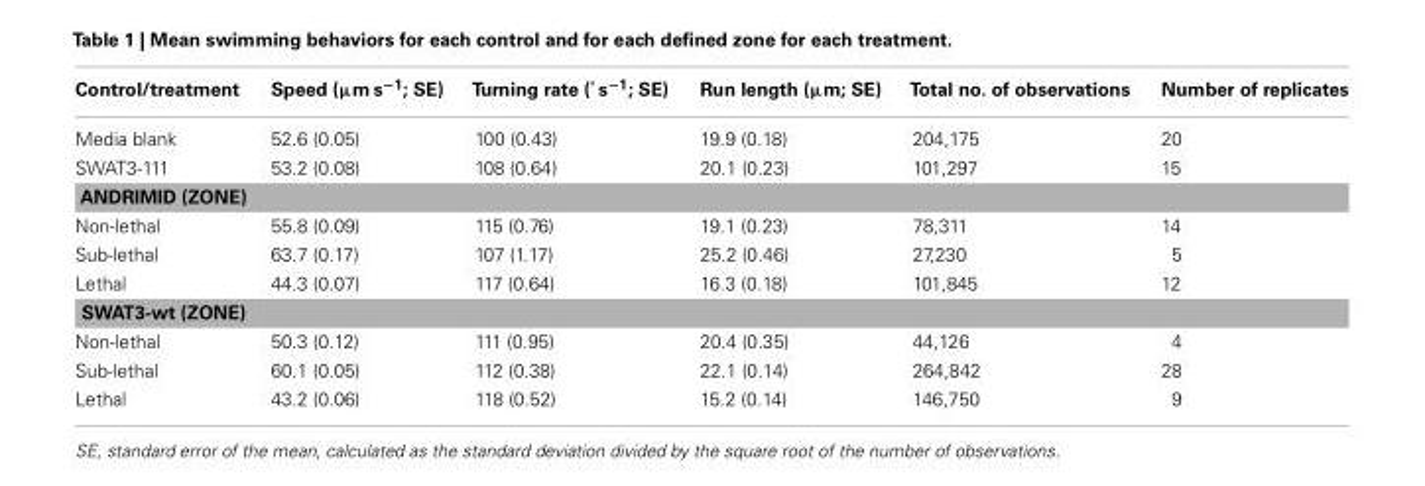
<table><thead><tr><td>Control/treatment</td><td>Speed (µm s<sup>−1</sup>; SE)</td><td>Turning rate (˚ s−1; SE)</td><td>Run length (µm; SE)</td><td>Total no. of observations</td><td>Number of replicates</td></tr></thead><tbody><tr><td>Media blank</td><td>52.6 (0.05)</td><td>100 (0.43)</td><td>19.9 (0.18)</td><td>204,175</td><td>20</td></tr><tr><td>SWAT3-111</td><td>53.2 (0.08)</td><td>108 (0.64)</td><td>20.1 (0.23)</td><td>101,297</td><td>15</td></tr><tr><td colspan="6">ANDRIMID (ZONE)</td></tr><tr><td>Non-lethal</td><td>55.8 (0.09)</td><td>115 (0.76)</td><td>19.1 (0.23)</td><td>78,311</td><td>14</td></tr><tr><td>Sub-lethal</td><td>63.7 (0.17)</td><td>107 (1.17)</td><td>25.2 (0.46)</td><td>27,230</td><td>5</td></tr><tr><td>Lethal</td><td>44.3 (0.07)</td><td>117 (0.64)</td><td>16.3 (0.18)</td><td>101,845</td><td>12</td></tr><tr><td colspan="6">SWAT3-wt (ZONE)</td></tr><tr><td>Non-lethal</td><td>50.3 (0.12)</td><td>111 (0.95)</td><td>20.4 (0.35)</td><td>44,126</td><td>4</td></tr><tr><td>Sub-lethal</td><td>60.1 (0.05)</td><td>112 (0.38)</td><td>22.1 (0.14)</td><td>264,842</td><td>28</td></tr><tr><td>Lethal</td><td>43.2 (0.06)</td><td>118 (0.52)</td><td>15.2 (0.14)</td><td>146,750</td><td>9</td></tr></tbody></table>